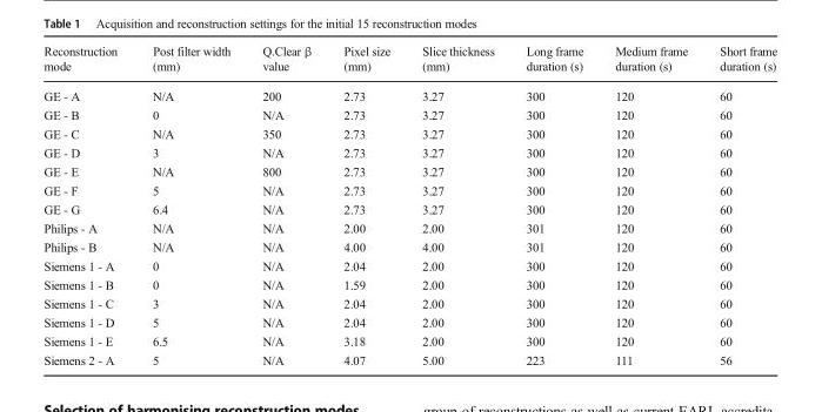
<table><thead><tr><td>Reconstruction mode</td><td>Post filter width (mm)</td><td>Q.Clear β value</td><td>Pixel size (mm)</td><td>Slice thickness (mm)</td><td>Long frame duration (s)</td><td>Medium frame duration (s)</td><td>Short frame duration (s)</td></tr></thead><tbody><tr><td>GE - A</td><td>N/A</td><td>200</td><td>2.73</td><td>3.27</td><td>300</td><td>120</td><td>60</td></tr><tr><td>GE - B</td><td>0</td><td>N/A</td><td>2.73</td><td>3.27</td><td>300</td><td>120</td><td>60</td></tr><tr><td>GE - C</td><td>N/A</td><td>350</td><td>2.73</td><td>3.27</td><td>300</td><td>120</td><td>60</td></tr><tr><td>GE - D</td><td>3</td><td>N/A</td><td>2.73</td><td>3.27</td><td>300</td><td>120</td><td>60</td></tr><tr><td>GE - E</td><td>N/A</td><td>800</td><td>2.73</td><td>3.27</td><td>300</td><td>120</td><td>60</td></tr><tr><td>GE - F</td><td>5</td><td>N/A</td><td>2.73</td><td>3.27</td><td>300</td><td>120</td><td>60</td></tr><tr><td>GE - G</td><td>6.4</td><td>N/A</td><td>2.73</td><td>3.27</td><td>300</td><td>120</td><td>60</td></tr><tr><td>Philips - A</td><td>N/A</td><td>N/A</td><td>2.00</td><td>2.00</td><td>301</td><td>120</td><td>60</td></tr><tr><td>Philips - B</td><td>N/A</td><td>N/A</td><td>4.00</td><td>4.00</td><td>301</td><td>120</td><td>60</td></tr><tr><td>Siemens 1 - A</td><td>0</td><td>N/A</td><td>2.04</td><td>2.00</td><td>300</td><td>120</td><td>60</td></tr><tr><td>Siemens 1 - B</td><td>0</td><td>N/A</td><td>1.59</td><td>2.00</td><td>300</td><td>120</td><td>60</td></tr><tr><td>Siemens 1 - C</td><td>3</td><td>N/A</td><td>2.04</td><td>2.00</td><td>300</td><td>120</td><td>60</td></tr><tr><td>Siemens 1 - D</td><td>5</td><td>N/A</td><td>2.04</td><td>2.00</td><td>300</td><td>120</td><td>60</td></tr><tr><td>Siemens 1 - E</td><td>6.5</td><td>N/A</td><td>3.18</td><td>2.00</td><td>300</td><td>120</td><td>60</td></tr><tr><td>Siemens 2 - A</td><td>5</td><td>N/A</td><td>4.07</td><td>5.00</td><td>223</td><td>111</td><td>56</td></tr></tbody></table>